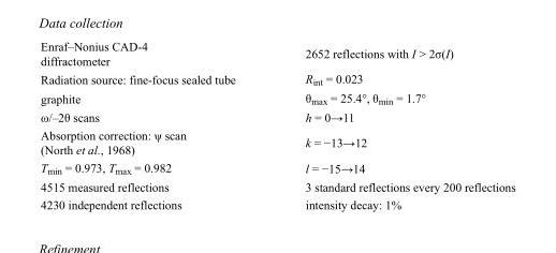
<table><tbody><tr><td>Enraf–Nonius CAD-4 diffractometer</td><td>2652 reflections with I &gt; 2σ(I)</td></tr><tr><td>Radiation source: fine-focus sealed tube</td><td>R<sub>int</sub> = 0.023</td></tr><tr><td>graphite</td><td>θ<sub>max</sub> = 25.4°, θ<sub>min</sub> = 1.7°</td></tr><tr><td>ω/–2θ scans</td><td>h = 0→11</td></tr><tr><td>Absorption correction: ψ scan (North et al., 1968)</td><td>k = −13→12</td></tr><tr><td>T<sub>min</sub> = 0.973, T<sub>max</sub> = 0.982</td><td>l = −15→14</td></tr><tr><td>4515 measured reflections</td><td>3 standard reflections every 200 reflections</td></tr><tr><td>4230 independent reflections</td><td>intensity decay: 1%</td></tr></tbody></table>